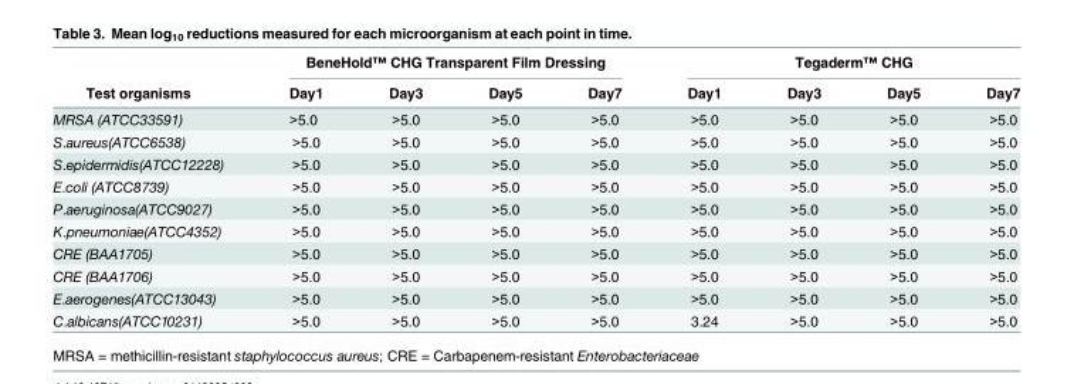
<table><thead><tr><td rowspan="2">Test organisms</td><td colspan="4">BeneHold™ CHG Transparent Film Dressing</td><td colspan="4">Tegaderm™ CHG</td></tr><tr><td>Day1</td><td>Day3</td><td>Day5</td><td>Day7</td><td>Day1</td><td>Day3</td><td>Day5</td><td>Day7</td></tr></thead><tbody><tr><td>MRSA (ATCC33591)</td><td>&gt;5.0</td><td>&gt;5.0</td><td>&gt;5.0</td><td>&gt;5.0</td><td>&gt;5.0</td><td>&gt;5.0</td><td>&gt;5.0</td><td>&gt;5.0</td></tr><tr><td>S.aureus(ATCC6538)</td><td>&gt;5.0</td><td>&gt;5.0</td><td>&gt;5.0</td><td>&gt;5.0</td><td>&gt;5.0</td><td>&gt;5.0</td><td>&gt;5.0</td><td>&gt;5.0</td></tr><tr><td>S.epidermidis(ATCC12228)</td><td>&gt;5.0</td><td>&gt;5.0</td><td>&gt;5.0</td><td>&gt;5.0</td><td>&gt;5.0</td><td>&gt;5.0</td><td>&gt;5.0</td><td>&gt;5.0</td></tr><tr><td>E.coli (ATCC8739)</td><td>&gt;5.0</td><td>&gt;5.0</td><td>&gt;5.0</td><td>&gt;5.0</td><td>&gt;5.0</td><td>&gt;5.0</td><td>&gt;5.0</td><td>&gt;5.0</td></tr><tr><td>P.aeruginosa(ATCC9027)</td><td>&gt;5.0</td><td>&gt;5.0</td><td>&gt;5.0</td><td>&gt;5.0</td><td>&gt;5.0</td><td>&gt;5.0</td><td>&gt;5.0</td><td>&gt;5.0</td></tr><tr><td>K.pneumoniae(ATCC4352)</td><td>&gt;5.0</td><td>&gt;5.0</td><td>&gt;5.0</td><td>&gt;5.0</td><td>&gt;5.0</td><td>&gt;5.0</td><td>&gt;5.0</td><td>&gt;5.0</td></tr><tr><td>CRE (BAA1705)</td><td>&gt;5.0</td><td>&gt;5.0</td><td>&gt;5.0</td><td>&gt;5.0</td><td>&gt;5.0</td><td>&gt;5.0</td><td>&gt;5.0</td><td>&gt;5.0</td></tr><tr><td>CRE (BAA1706)</td><td>&gt;5.0</td><td>&gt;5.0</td><td>&gt;5.0</td><td>&gt;5.0</td><td>&gt;5.0</td><td>&gt;5.0</td><td>&gt;5.0</td><td>&gt;5.0</td></tr><tr><td>E.aerogenes(ATCC13043)</td><td>&gt;5.0</td><td>&gt;5.0</td><td>&gt;5.0</td><td>&gt;5.0</td><td>&gt;5.0</td><td>&gt;5.0</td><td>&gt;5.0</td><td>&gt;5.0</td></tr><tr><td>C.albicans(ATCC10231)</td><td>&gt;5.0</td><td>&gt;5.0</td><td>&gt;5.0</td><td>&gt;5.0</td><td>3.24</td><td>&gt;5.0</td><td>&gt;5.0</td><td>&gt;5.0</td></tr></tbody></table>